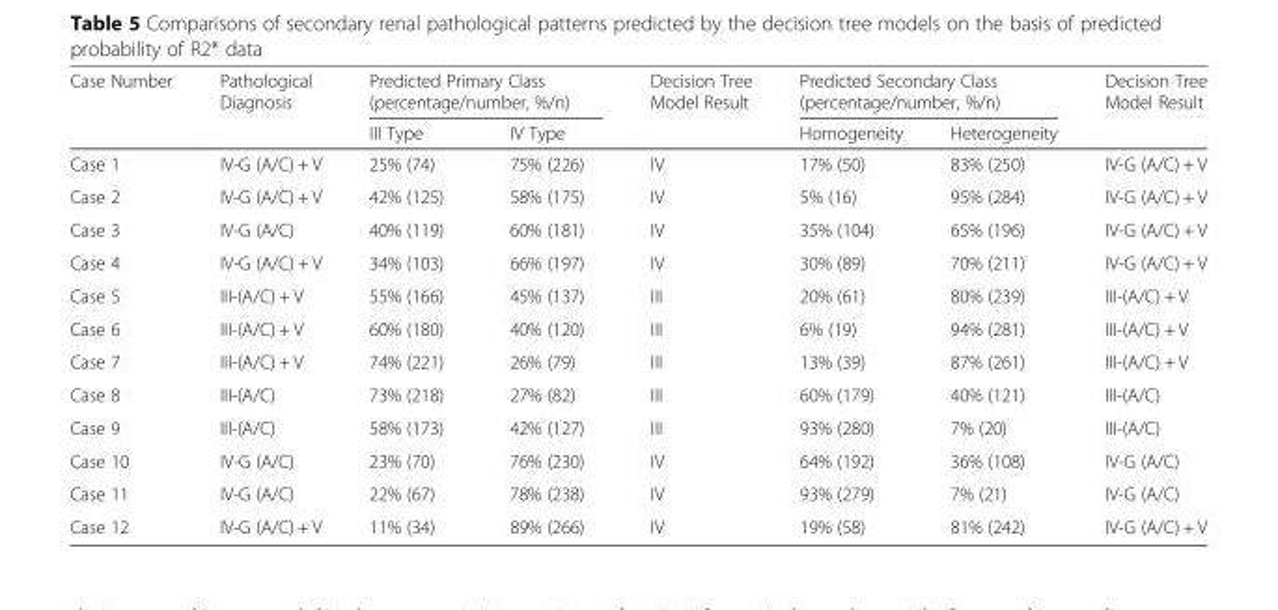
<table><thead><tr><td rowspan="2">Case Number</td><td rowspan="2">Pathological Diagnosis</td><td colspan="2">Predicted Primary Class (percentage/number, %/n)</td><td rowspan="2">Decision Tree Model Result</td><td colspan="2">Predicted Secondary Class (percentage/number, %/n)</td><td rowspan="2">Decision Tree Model Result</td></tr><tr><td>III Type</td><td>IV Type</td><td>Homogeneity</td><td>Heterogeneity</td></tr></thead><tbody><tr><td>Case 1</td><td>IV-G (A/C) + V</td><td>25% (74)</td><td>75% (226)</td><td>IV</td><td>17% (50)</td><td>83% (250)</td><td>IV-G (A/C) + V</td></tr><tr><td>Case 2</td><td>IV-G (A/C) + V</td><td>42% (125)</td><td>58% (175)</td><td>IV</td><td>5% (16)</td><td>95% (284)</td><td>IV-G (A/C) + V</td></tr><tr><td>Case 3</td><td>IV-G (A/C)</td><td>40% (119)</td><td>60% (181)</td><td>IV</td><td>35% (104)</td><td>65% (196)</td><td>IV-G (A/C) + V</td></tr><tr><td>Case 4</td><td>IV-G (A/C) + V</td><td>34% (103)</td><td>66% (197)</td><td>IV</td><td>30% (89)</td><td>70% (211)</td><td>IV-G (A/C) + V</td></tr><tr><td>Case 5</td><td>III-(A/C) + V</td><td>55% (166)</td><td>45% (137)</td><td>III</td><td>20% (61)</td><td>80% (239)</td><td>III-(A/C) + V</td></tr><tr><td>Case 6</td><td>III-(A/C) + V</td><td>60% (180)</td><td>40% (120)</td><td>III</td><td>6% (19)</td><td>94% (281)</td><td>III-(A/C) + V</td></tr><tr><td>Case 7</td><td>III-(A/C) + V</td><td>74% (221)</td><td>26% (79)</td><td>III</td><td>13% (39)</td><td>87% (261)</td><td>III-(A/C) + V</td></tr><tr><td>Case 8</td><td>III-(A/C)</td><td>73% (218)</td><td>27% (82)</td><td>III</td><td>60% (179)</td><td>40% (121)</td><td>III-(A/C)</td></tr><tr><td>Case 9</td><td>III-(A/C)</td><td>58% (173)</td><td>42% (127)</td><td>III</td><td>93% (280)</td><td>7% (20)</td><td>III-(A/C)</td></tr><tr><td>Case 10</td><td>IV-G (A/C)</td><td>23% (70)</td><td>76% (230)</td><td>IV</td><td>64% (192)</td><td>36% (108)</td><td>IV-G (A/C)</td></tr><tr><td>Case 11</td><td>IV-G (A/C)</td><td>22% (67)</td><td>78% (238)</td><td>IV</td><td>93% (279)</td><td>7% (21)</td><td>IV-G (A/C)</td></tr><tr><td>Case 12</td><td>IV-G (A/C) + V</td><td>11% (34)</td><td>89% (266)</td><td>IV</td><td>19% (58)</td><td>81% (242)</td><td>IV-G (A/C) + V</td></tr></tbody></table>